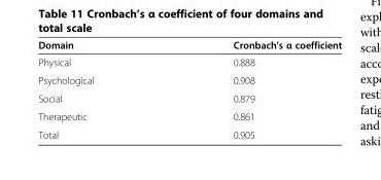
<table><thead><tr><td>Domain</td><td>Cronbach’s α coefficient</td></tr></thead><tbody><tr><td>Physical</td><td>0.888</td></tr><tr><td>Psychological</td><td>0.908</td></tr><tr><td>Social</td><td>0.879</td></tr><tr><td>Therapeutic</td><td>0.861</td></tr><tr><td>Total</td><td>0.905</td></tr></tbody></table>